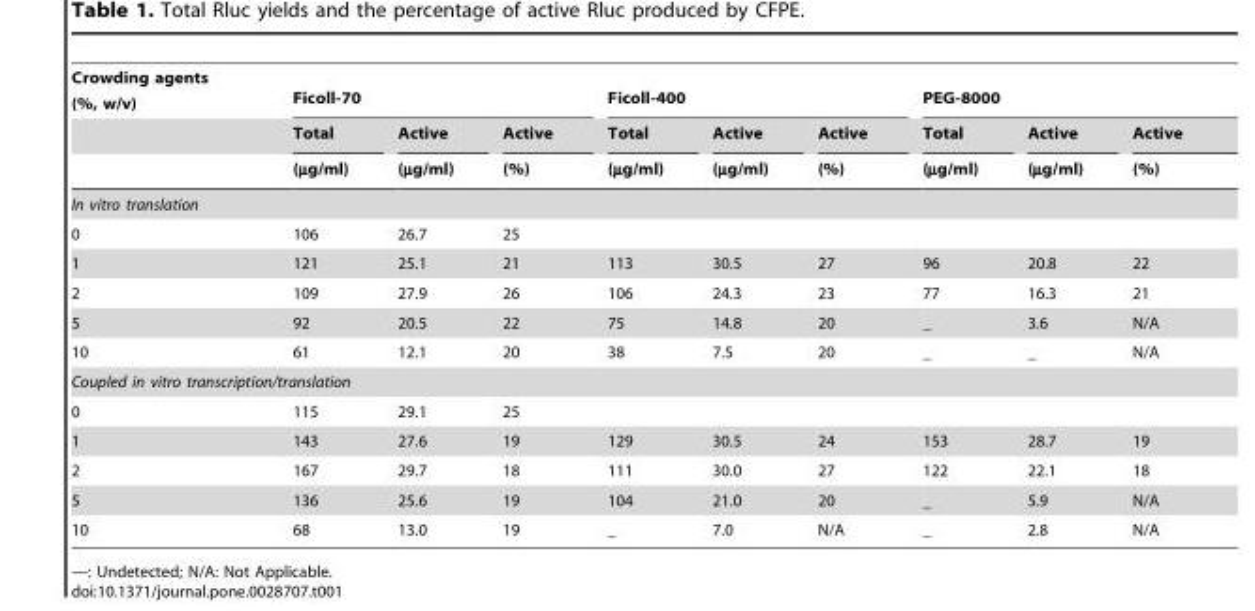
<table><thead><tr><td rowspan="3">Crowding agents (%, w/v)</td><td colspan="3">Ficoll-70</td><td colspan="3">Ficoll-400</td><td colspan="3">PEG-8000</td></tr><tr><td rowspan="2">Total (µg/ml)</td><td rowspan="2">Active (µg/ml)</td><td rowspan="2">Active (%)</td><td rowspan="2">Total (µg/ml)</td><td rowspan="2">Active (µg/ml)</td><td rowspan="2">Active (%)</td><td rowspan="2">Total (µg/ml)</td><td rowspan="2">Active (µg/ml)</td><td rowspan="2">Active (%)</td></tr><tr></tr></thead><tbody><tr><td colspan="10">In vitro translation</td></tr><tr><td>0</td><td>106</td><td>26.7</td><td>25</td><td></td><td></td><td></td><td></td><td></td><td></td></tr><tr><td>1</td><td>121</td><td>25.1</td><td>21</td><td>113</td><td>30.5</td><td>27</td><td>96</td><td>20.8</td><td>22</td></tr><tr><td>2</td><td>109</td><td>27.9</td><td>26</td><td>106</td><td>24.3</td><td>23</td><td>77</td><td>16.3</td><td>21</td></tr><tr><td>5</td><td>92</td><td>20.5</td><td>22</td><td>75</td><td>14.8</td><td>20</td><td>―</td><td>3.6</td><td>N/A</td></tr><tr><td>10</td><td>61</td><td>12.1</td><td>20</td><td>38</td><td>7.5</td><td>20</td><td>―</td><td>―</td><td>N/A</td></tr><tr><td colspan="10">Coupled in vitro transcription/translation</td></tr><tr><td>0</td><td>115</td><td>29.1</td><td>25</td><td></td><td></td><td></td><td></td><td></td><td></td></tr><tr><td>1</td><td>143</td><td>27.6</td><td>19</td><td>129</td><td>30.5</td><td>24</td><td>153</td><td>28.7</td><td>19</td></tr><tr><td>2</td><td>167</td><td>29.7</td><td>18</td><td>111</td><td>30.0</td><td>27</td><td>122</td><td>22.1</td><td>18</td></tr><tr><td>5</td><td>136</td><td>25.6</td><td>19</td><td>104</td><td>21.0</td><td>20</td><td>―</td><td>5.9</td><td>N/A</td></tr><tr><td>10</td><td>68</td><td>13.0</td><td>19</td><td>―</td><td>7.0</td><td>N/A</td><td>―</td><td>2.8</td><td>N/A</td></tr></tbody></table>